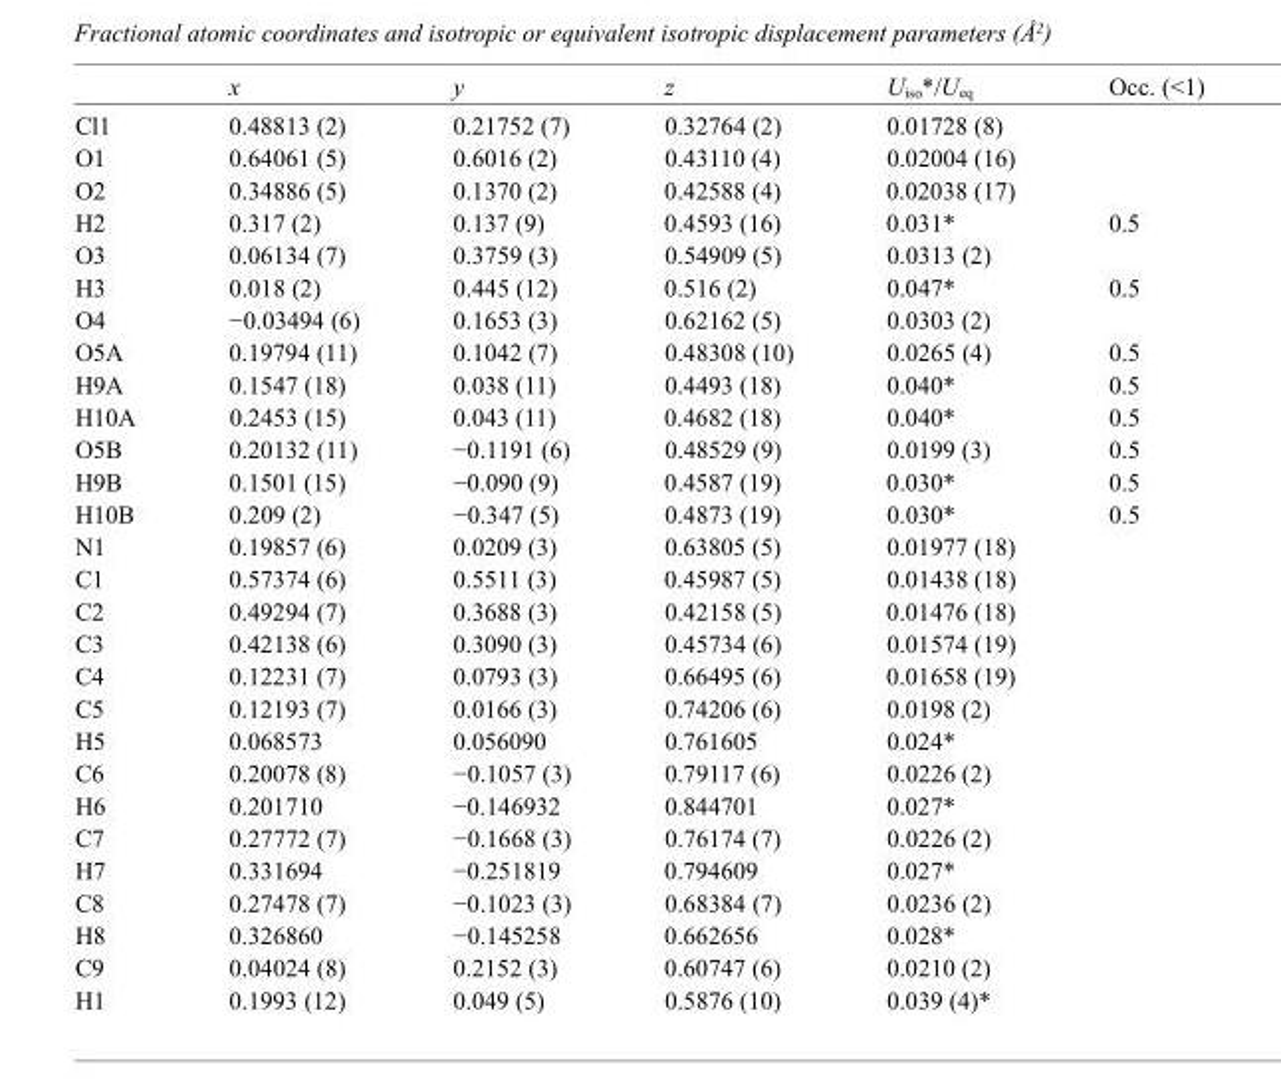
<table><thead><tr><td></td><td>x</td><td>y</td><td>z</td><td>U<sub>iso</sub>*/U<sub>eq</sub></td><td>Occ. (&lt;1)</td></tr></thead><tbody><tr><td>Cl1</td><td>0.48813 (2)</td><td>0.21752 (7)</td><td>0.32764 (2)</td><td>0.01728 (8)</td><td></td></tr><tr><td>O1</td><td>0.64061 (5)</td><td>0.6016 (2)</td><td>0.43110 (4)</td><td>0.02004 (16)</td><td></td></tr><tr><td>O2</td><td>0.34886 (5)</td><td>0.1370 (2)</td><td>0.42588 (4)</td><td>0.02038 (17)</td><td></td></tr><tr><td>H2</td><td>0.317 (2)</td><td>0.137 (9)</td><td>0.4593 (16)</td><td>0.031*</td><td>0.5</td></tr><tr><td>O3</td><td>0.06134 (7)</td><td>0.3759 (3)</td><td>0.54909 (5)</td><td>0.0313 (2)</td><td></td></tr><tr><td>H3</td><td>0.018 (2)</td><td>0.445 (12)</td><td>0.516 (2)</td><td>0.047*</td><td>0.5</td></tr><tr><td>O4</td><td>−0.03494 (6)</td><td>0.1653 (3)</td><td>0.62162 (5)</td><td>0.0303 (2)</td><td></td></tr><tr><td>O5A</td><td>0.19794 (11)</td><td>0.1042 (7)</td><td>0.48308 (10)</td><td>0.0265 (4)</td><td>0.5</td></tr><tr><td>H9A</td><td>0.1547 (18)</td><td>0.038 (11)</td><td>0.4493 (18)</td><td>0.040*</td><td>0.5</td></tr><tr><td>H10A</td><td>0.2453 (15)</td><td>0.043 (11)</td><td>0.4682 (18)</td><td>0.040*</td><td>0.5</td></tr><tr><td>O5B</td><td>0.20132 (11)</td><td>−0.1191 (6)</td><td>0.48529 (9)</td><td>0.0199 (3)</td><td>0.5</td></tr><tr><td>H9B</td><td>0.1501 (15)</td><td>−0.090 (9)</td><td>0.4587 (19)</td><td>0.030*</td><td>0.5</td></tr><tr><td>H10B</td><td>0.209 (2)</td><td>−0.347 (5)</td><td>0.4873 (19)</td><td>0.030*</td><td>0.5</td></tr><tr><td>N1</td><td>0.19857 (6)</td><td>0.0209 (3)</td><td>0.63805 (5)</td><td>0.01977 (18)</td><td></td></tr><tr><td>C1</td><td>0.57374 (6)</td><td>0.5511 (3)</td><td>0.45987 (5)</td><td>0.01438 (18)</td><td></td></tr><tr><td>C2</td><td>0.49294 (7)</td><td>0.3688 (3)</td><td>0.42158 (5)</td><td>0.01476 (18)</td><td></td></tr><tr><td>C3</td><td>0.42138 (6)</td><td>0.3090 (3)</td><td>0.45734 (6)</td><td>0.01574 (19)</td><td></td></tr><tr><td>C4</td><td>0.12231 (7)</td><td>0.0793 (3)</td><td>0.66495 (6)</td><td>0.01658 (19)</td><td></td></tr><tr><td>C5</td><td>0.12193 (7)</td><td>0.0166 (3)</td><td>0.74206 (6)</td><td>0.0198 (2)</td><td></td></tr><tr><td>H5</td><td>0.068573</td><td>0.056090</td><td>0.761605</td><td>0.024*</td><td></td></tr><tr><td>C6</td><td>0.20078 (8)</td><td>−0.1057 (3)</td><td>0.79117 (6)</td><td>0.0226 (2)</td><td></td></tr><tr><td>H6</td><td>0.201710</td><td>−0.146932</td><td>0.844701</td><td>0.027*</td><td></td></tr><tr><td>C7</td><td>0.27772 (7)</td><td>−0.1668 (3)</td><td>0.76174 (7)</td><td>0.0226 (2)</td><td></td></tr><tr><td>H7</td><td>0.331694</td><td>−0.251819</td><td>0.794609</td><td>0.027*</td><td></td></tr><tr><td>C8</td><td>0.27478 (7)</td><td>−0.1023 (3)</td><td>0.68384 (7)</td><td>0.0236 (2)</td><td></td></tr><tr><td>H8</td><td>0.326860</td><td>−0.145258</td><td>0.662656</td><td>0.028*</td><td></td></tr><tr><td>C9</td><td>0.04024 (8)</td><td>0.2152 (3)</td><td>0.60747 (6)</td><td>0.0210 (2)</td><td></td></tr><tr><td>H1</td><td>0.1993 (12)</td><td>0.049 (5)</td><td>0.5876 (10)</td><td>0.039 (4)*</td><td></td></tr></tbody></table>